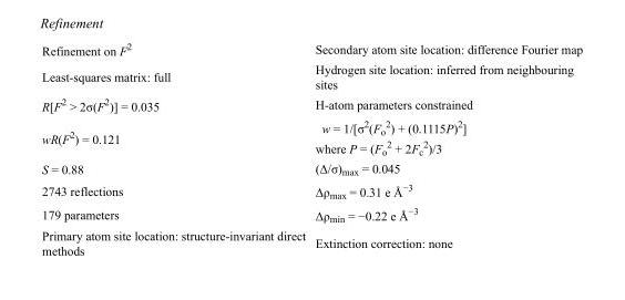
<table><tbody><tr><td>Refinement on F<sup>2</sup></td><td>Secondary atom site location: difference Fourier map</td></tr><tr><td>Least-squares matrix: full</td><td>Hydrogen site location: inferred from neighbouring sites</td></tr><tr><td>R[F<sup>2</sup> &gt; 2σ(F<sup>2</sup>)] = 0.035</td><td>H-atom parameters constrained</td></tr><tr><td>wR(F<sup>2</sup>) = 0.121</td><td>w = 1/[σ<sup>2</sup>(F<sub>o</sub> <sup>2</sup>) + (0.1115P)<sup>2</sup>] where P = (F<sub>o</sub> <sup>2</sup> + 2F<sub>c</sub> <sup>2</sup>)/3</td></tr><tr><td>S = 0.88</td><td>(Δ/σ)<sub>max</sub> = 0.045</td></tr><tr><td>2743 reflections</td><td>Δρ<sub>max</sub> = 0.31 e Å<sup>−3</sup></td></tr><tr><td>179 parameters</td><td>Δρ<sub>min</sub> = −0.22 e Å<sup>−3</sup></td></tr><tr><td>Primary atom site location: structure-invariant direct methods</td><td>Extinction correction: none</td></tr></tbody></table>